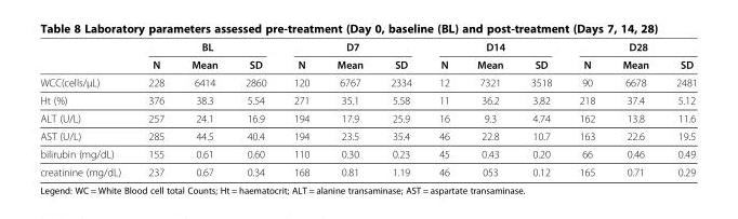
<table><thead><tr><td rowspan="2"></td><td colspan="3">BL</td><td colspan="3">D7</td><td colspan="3">D14</td><td colspan="3">D28</td></tr><tr><td>N</td><td>Mean</td><td>SD</td><td>N</td><td>Mean</td><td>SD</td><td>N</td><td>Mean</td><td>SD</td><td>N</td><td>Mean</td><td>SD</td></tr></thead><tbody><tr><td>WCC(cells/μL)</td><td>228</td><td>6414</td><td>2860</td><td>120</td><td>6767</td><td>2334</td><td>12</td><td>7321</td><td>3518</td><td>90</td><td>6678</td><td>2481</td></tr><tr><td>Ht (%)</td><td>376</td><td>38.3</td><td>5.54</td><td>271</td><td>35.1</td><td>5.58</td><td>11</td><td>36.2</td><td>3.82</td><td>218</td><td>37.4</td><td>5.12</td></tr><tr><td>ALT (U/L)</td><td>257</td><td>24.1</td><td>16.9</td><td>194</td><td>17.9</td><td>25.9</td><td>16</td><td>9.3</td><td>4.74</td><td>162</td><td>13.8</td><td>11.6</td></tr><tr><td>AST (U/L)</td><td>285</td><td>44.5</td><td>40.4</td><td>194</td><td>23.5</td><td>35.4</td><td>46</td><td>22.8</td><td>10.7</td><td>163</td><td>22.6</td><td>19.5</td></tr><tr><td>bilirubin (mg/dL)</td><td>155</td><td>0.61</td><td>0.60</td><td>110</td><td>0.30</td><td>0.23</td><td>45</td><td>0.43</td><td>0.20</td><td>66</td><td>0.46</td><td>0.49</td></tr><tr><td>creatinine (mg/dL)</td><td>237</td><td>0.67</td><td>0.34</td><td>168</td><td>0.81</td><td>1.19</td><td>46</td><td>053</td><td>0.12</td><td>165</td><td>0.71</td><td>0.29</td></tr></tbody></table>